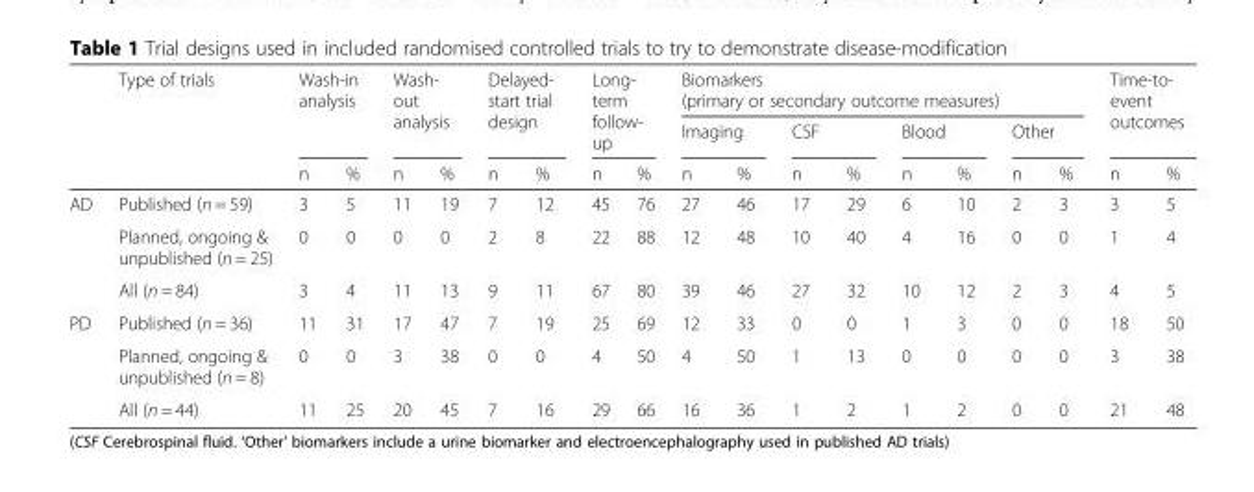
<table><thead><tr><td rowspan="3"></td><td rowspan="3">Type of trials</td><td rowspan="2" colspan="2">Wash-in analysis</td><td rowspan="2" colspan="2">Wash- out analysis</td><td rowspan="2" colspan="2">Delayed- start trial design</td><td rowspan="2" colspan="2">Long- term follow- up</td><td colspan="8">Biomarkers (primary or secondary outcome measures)</td><td rowspan="2" colspan="2">Time-to- event outcomes</td></tr><tr><td colspan="2">Imaging</td><td colspan="2">CSF</td><td colspan="2">Blood</td><td colspan="2">Other</td></tr><tr><td>n</td><td>%</td><td>n</td><td>%</td><td>n</td><td>%</td><td>n</td><td>%</td><td>n</td><td>%</td><td>n</td><td>%</td><td>n</td><td>%</td><td>n</td><td>%</td><td>n</td><td>%</td></tr></thead><tbody><tr><td rowspan="3">AD</td><td>Published (n = 59)</td><td>3</td><td>5</td><td>11</td><td>19</td><td>7</td><td>12</td><td>45</td><td>76</td><td>27</td><td>46</td><td>17</td><td>29</td><td>6</td><td>10</td><td>2</td><td>3</td><td>3</td><td>5</td></tr><tr><td>Planned, ongoing &amp; unpublished (n = 25)</td><td>0</td><td>0</td><td>0</td><td>0</td><td>2</td><td>8</td><td>22</td><td>88</td><td>12</td><td>48</td><td>10</td><td>40</td><td>4</td><td>16</td><td>0</td><td>0</td><td>1</td><td>4</td></tr><tr><td>All (n = 84)</td><td>3</td><td>4</td><td>11</td><td>13</td><td>9</td><td>11</td><td>67</td><td>80</td><td>39</td><td>46</td><td>27</td><td>32</td><td>10</td><td>12</td><td>2</td><td>3</td><td>4</td><td>5</td></tr><tr><td rowspan="3">PD</td><td>Published (n = 36)</td><td>11</td><td>31</td><td>17</td><td>47</td><td>7</td><td>19</td><td>25</td><td>69</td><td>12</td><td>33</td><td>0</td><td>0</td><td>1</td><td>3</td><td>0</td><td>0</td><td>18</td><td>50</td></tr><tr><td>Planned, ongoing &amp; unpublished (n = 8)</td><td>0</td><td>0</td><td>3</td><td>38</td><td>0</td><td>0</td><td>4</td><td>50</td><td>4</td><td>50</td><td>1</td><td>13</td><td>0</td><td>0</td><td>0</td><td>0</td><td>3</td><td>38</td></tr><tr><td>All (n = 44)</td><td>11</td><td>25</td><td>20</td><td>45</td><td>7</td><td>16</td><td>29</td><td>66</td><td>16</td><td>36</td><td>1</td><td>2</td><td>1</td><td>2</td><td>0</td><td>0</td><td>21</td><td>48</td></tr></tbody></table>